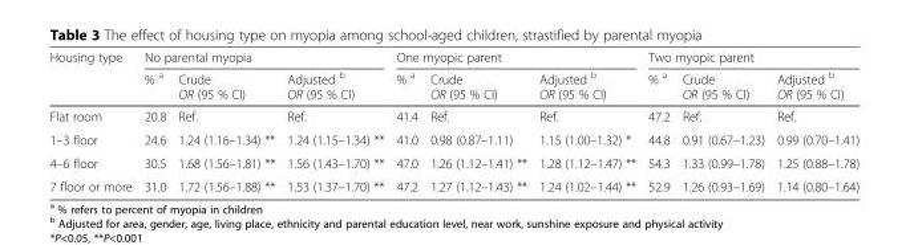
<table><thead><tr><td rowspan="2">Housing type</td><td colspan="3">No parental myopia</td><td colspan="3">One myopic parent</td><td colspan="3">Two myopic parent</td></tr><tr><td>% <sup>a</sup></td><td>Crude OR (95 % CI)</td><td>Adjusted <sup>b</sup> OR (95 % CI)</td><td>% <sup>a</sup></td><td>Crude OR (95 % CI)</td><td>Adjusted <sup>b</sup> OR (95 % CI)</td><td>% <sup>a</sup></td><td>Crude OR (95 % CI)</td><td>Adjusted <sup>b</sup> OR (95 % CI)</td></tr></thead><tbody><tr><td>Flat room</td><td>20.8</td><td>Ref.</td><td>Ref.</td><td>41.4</td><td>Ref.</td><td>Ref.</td><td>47.2</td><td>Ref.</td><td>Ref.</td></tr><tr><td>1–3 floor</td><td>24.6</td><td>1.24 (1.16–1.34) **</td><td>1.24 (1.15–1.34) **</td><td>41.0</td><td>0.98 (0.87–1.11)</td><td>1.15 (1.00–1.32) *</td><td>44.8</td><td>0.91 (0.67–1.23)</td><td>0.99 (0.70–1.41)</td></tr><tr><td>4–6 floor</td><td>30.5</td><td>1.68 (1.56–1.81) **</td><td>1.56 (1.43–1.70) **</td><td>47.0</td><td>1.26 (1.12–1.41) **</td><td>1.28 (1.12–1.47) **</td><td>54.3</td><td>1.33 (0.99–1.78)</td><td>1.25 (0.88–1.78)</td></tr><tr><td>7 floor or more</td><td>31.0</td><td>1.72 (1.56–1.88) **</td><td>1.53 (1.37–1.70) **</td><td>47.2</td><td>1.27 (1.12–1.43) **</td><td>1.24 (1.02–1.44) **</td><td>52.9</td><td>1.26 (0.93–1.69)</td><td>1.14 (0.80–1.64)</td></tr></tbody></table>